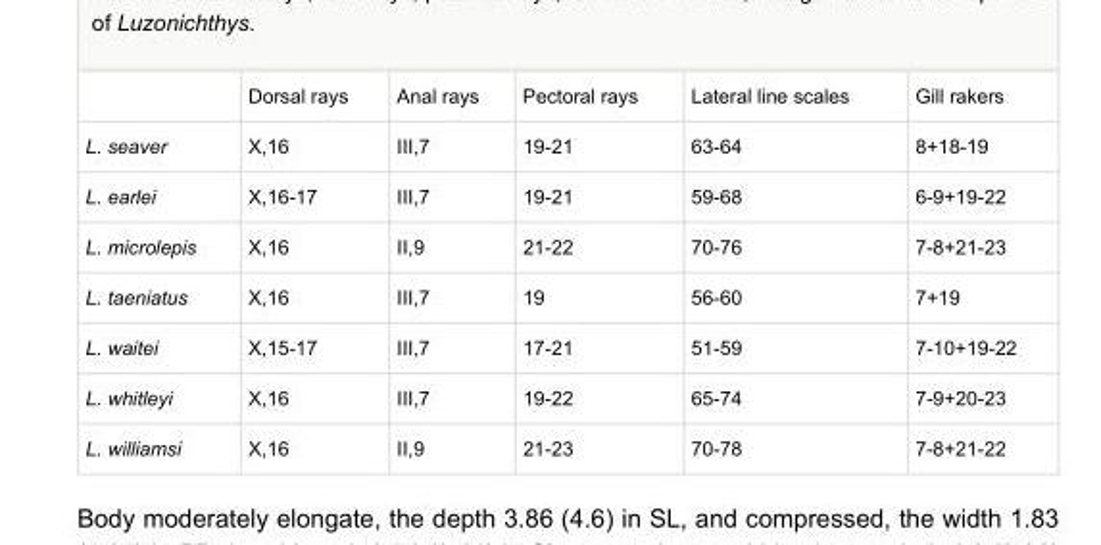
<table><thead><tr><td></td><td>Dorsal rays</td><td>Anal rays</td><td>Pectoral rays</td><td>Lateral line scales</td><td>Gill rakers</td></tr></thead><tbody><tr><td>L. seaver</td><td>X,16</td><td>III,7</td><td>19-21</td><td>63-64</td><td>8+18-19</td></tr><tr><td>L. earlei</td><td>X,16-17</td><td>III,7</td><td>19-21</td><td>59-68</td><td>6-9+19-22</td></tr><tr><td>L. microlepis</td><td>X,16</td><td>II,9</td><td>21-22</td><td>70-76</td><td>7-8+21-23</td></tr><tr><td>L. taeniatus</td><td>X,16</td><td>III,7</td><td>19</td><td>56-60</td><td>7+19</td></tr><tr><td>L. waitei</td><td>X,15-17</td><td>III,7</td><td>17-21</td><td>51-59</td><td>7-10+19-22</td></tr><tr><td>L. whitleyi</td><td>X,16</td><td>III,7</td><td>19-22</td><td>65-74</td><td>7-9+20-23</td></tr><tr><td>L. williamsi</td><td>X,16</td><td>II,9</td><td>21-23</td><td>70-78</td><td>7-8+21-22</td></tr></tbody></table>